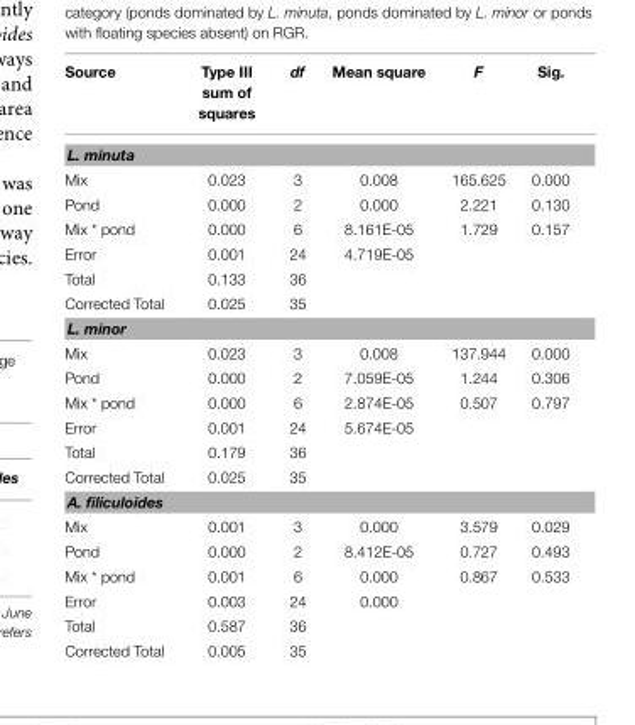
<table><thead><tr><td>Source</td><td>Type III sum of squares</td><td>df</td><td>Mean square</td><td>F</td><td>Sig.</td></tr></thead><tbody><tr><td colspan="6">L. minuta</td></tr><tr><td>Mix</td><td>0.023</td><td>3</td><td>0.008</td><td>165.625</td><td>0.000</td></tr><tr><td>Pond</td><td>0.000</td><td>2</td><td>0.000</td><td>2.221</td><td>0.130</td></tr><tr><td>Mix * pond</td><td>0.000</td><td>6</td><td>8.161E-05</td><td>1.729</td><td>0.157</td></tr><tr><td>Error</td><td>0.001</td><td>24</td><td>4.719E-05</td><td></td><td></td></tr><tr><td>Total</td><td>0.133</td><td>36</td><td></td><td></td><td></td></tr><tr><td>Corrected Total</td><td>0.025</td><td>35</td><td></td><td></td><td></td></tr><tr><td colspan="6">L. minor</td></tr><tr><td>Mix</td><td>0.023</td><td>3</td><td>0.008</td><td>137.944</td><td>0.000</td></tr><tr><td>Pond</td><td>0.000</td><td>2</td><td>7.059E-05</td><td>1.244</td><td>0.306</td></tr><tr><td>Mix * pond</td><td>0.000</td><td>6</td><td>2.874E-05</td><td>0.507</td><td>0.797</td></tr><tr><td>Error</td><td>0.001</td><td>24</td><td>5.674E-05</td><td></td><td></td></tr><tr><td>Total</td><td>0.179</td><td>36</td><td></td><td></td><td></td></tr><tr><td>Corrected Total</td><td>0.025</td><td>35</td><td></td><td></td><td></td></tr><tr><td colspan="6">A. filiculoides</td></tr><tr><td>Mix</td><td>0.001</td><td>3</td><td>0.000</td><td>3.579</td><td>0.029</td></tr><tr><td>Pond</td><td>0.000</td><td>2</td><td>8.412E-05</td><td>0.727</td><td>0.493</td></tr><tr><td>Mix * pond</td><td>0.001</td><td>6</td><td>0.000</td><td>0.867</td><td>0.533</td></tr><tr><td>Error</td><td>0.003</td><td>24</td><td>0.000</td><td></td><td></td></tr><tr><td>Total</td><td>0.587</td><td>36</td><td></td><td></td><td></td></tr><tr><td>Corrected Total</td><td>0.005</td><td>35</td><td></td><td></td><td></td></tr></tbody></table>